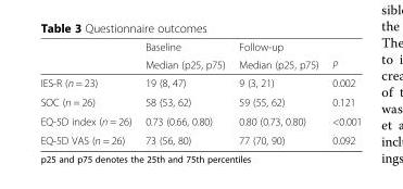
<table><thead><tr><td rowspan="2"></td><td rowspan="2">Baseline Median (p25, p75)</td><td rowspan="2">Follow-up Median (p25, p75)</td><td rowspan="2">P</td></tr><tr></tr></thead><tbody><tr><td>IES-R (n = 23)</td><td>19 (8, 47)</td><td>9 (3, 21)</td><td>0.002</td></tr><tr><td>SOC (n = 26)</td><td>58 (53, 62)</td><td>59 (55, 62)</td><td>0.121</td></tr><tr><td>EQ-5D index (n = 26)</td><td>0.73 (0.66, 0.80)</td><td>0.80 (0.73, 0.80)</td><td>&lt;0.001</td></tr><tr><td>EQ-5D VAS (n = 26)</td><td>73 (56, 80)</td><td>77 (70, 90)</td><td>0.092</td></tr></tbody></table>